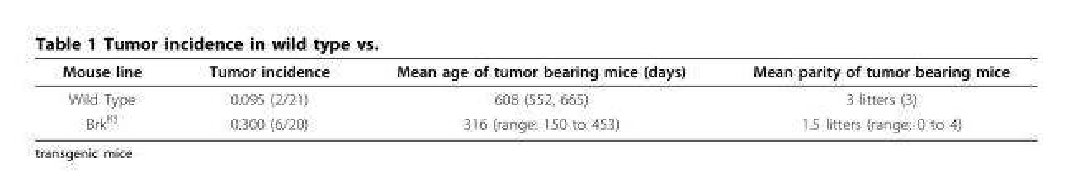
<table><thead><tr><td>Mouse line</td><td>Tumor incidence</td><td>Mean age of tumor bearing mice (days)</td><td>Mean parity of tumor bearing mice</td></tr></thead><tbody><tr><td>Wild Type</td><td>0.095 (2/21)</td><td>608 (552, 665)</td><td>3 litters (3)</td></tr><tr><td>Brk<sup>83</sup></td><td>0.300 (6/20)</td><td>316 (range: 150 to 453)</td><td>1.5 litters (range: 0 to 4)</td></tr></tbody></table>